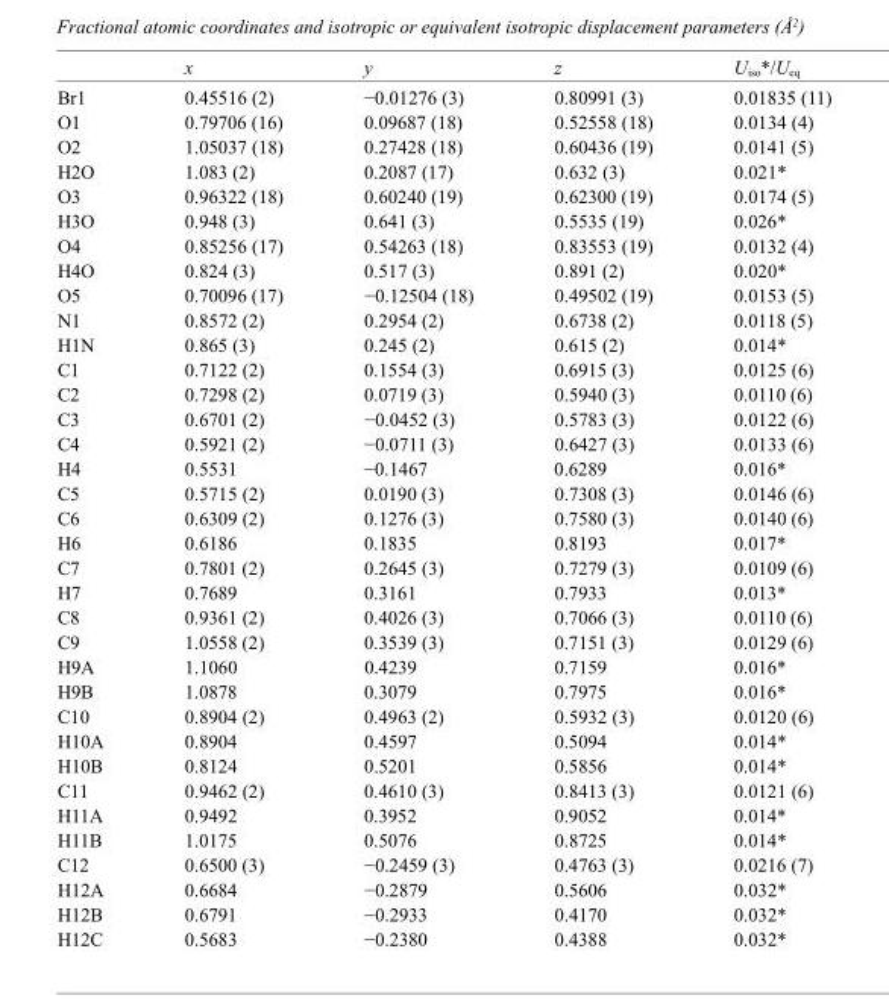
<table><thead><tr><td></td><td>x</td><td>y</td><td>z</td><td>U<sub>iso</sub>*/U<sub>eq</sub></td></tr></thead><tbody><tr><td>Br1</td><td>0.45516 (2)</td><td>−0.01276 (3)</td><td>0.80991 (3)</td><td>0.01835 (11)</td></tr><tr><td>O1</td><td>0.79706 (16)</td><td>0.09687 (18)</td><td>0.52558 (18)</td><td>0.0134 (4)</td></tr><tr><td>O2</td><td>1.05037 (18)</td><td>0.27428 (18)</td><td>0.60436 (19)</td><td>0.0141 (5)</td></tr><tr><td>H2O</td><td>1.083 (2)</td><td>0.2087 (17)</td><td>0.632 (3)</td><td>0.021*</td></tr><tr><td>O3</td><td>0.96322 (18)</td><td>0.60240 (19)</td><td>0.62300 (19)</td><td>0.0174 (5)</td></tr><tr><td>H3O</td><td>0.948 (3)</td><td>0.641 (3)</td><td>0.5535 (19)</td><td>0.026*</td></tr><tr><td>O4</td><td>0.85256 (17)</td><td>0.54263 (18)</td><td>0.83553 (19)</td><td>0.0132 (4)</td></tr><tr><td>H4O</td><td>0.824 (3)</td><td>0.517 (3)</td><td>0.891 (2)</td><td>0.020*</td></tr><tr><td>O5</td><td>0.70096 (17)</td><td>−0.12504 (18)</td><td>0.49502 (19)</td><td>0.0153 (5)</td></tr><tr><td>N1</td><td>0.8572 (2)</td><td>0.2954 (2)</td><td>0.6738 (2)</td><td>0.0118 (5)</td></tr><tr><td>H1N</td><td>0.865 (3)</td><td>0.245 (2)</td><td>0.615 (2)</td><td>0.014*</td></tr><tr><td>C1</td><td>0.7122 (2)</td><td>0.1554 (3)</td><td>0.6915 (3)</td><td>0.0125 (6)</td></tr><tr><td>C2</td><td>0.7298 (2)</td><td>0.0719 (3)</td><td>0.5940 (3)</td><td>0.0110 (6)</td></tr><tr><td>C3</td><td>0.6701 (2)</td><td>−0.0452 (3)</td><td>0.5783 (3)</td><td>0.0122 (6)</td></tr><tr><td>C4</td><td>0.5921 (2)</td><td>−0.0711 (3)</td><td>0.6427 (3)</td><td>0.0133 (6)</td></tr><tr><td>H4</td><td>0.5531</td><td>−0.1467</td><td>0.6289</td><td>0.016*</td></tr><tr><td>C5</td><td>0.5715 (2)</td><td>0.0190 (3)</td><td>0.7308 (3)</td><td>0.0146 (6)</td></tr><tr><td>C6</td><td>0.6309 (2)</td><td>0.1276 (3)</td><td>0.7580 (3)</td><td>0.0140 (6)</td></tr><tr><td>H6</td><td>0.6186</td><td>0.1835</td><td>0.8193</td><td>0.017*</td></tr><tr><td>C7</td><td>0.7801 (2)</td><td>0.2645 (3)</td><td>0.7279 (3)</td><td>0.0109 (6)</td></tr><tr><td>H7</td><td>0.7689</td><td>0.3161</td><td>0.7933</td><td>0.013*</td></tr><tr><td>C8</td><td>0.9361 (2)</td><td>0.4026 (3)</td><td>0.7066 (3)</td><td>0.0110 (6)</td></tr><tr><td>C9</td><td>1.0558 (2)</td><td>0.3539 (3)</td><td>0.7151 (3)</td><td>0.0129 (6)</td></tr><tr><td>H9A</td><td>1.1060</td><td>0.4239</td><td>0.7159</td><td>0.016*</td></tr><tr><td>H9B</td><td>1.0878</td><td>0.3079</td><td>0.7975</td><td>0.016*</td></tr><tr><td>C10</td><td>0.8904 (2)</td><td>0.4963 (2)</td><td>0.5932 (3)</td><td>0.0120 (6)</td></tr><tr><td>H10A</td><td>0.8904</td><td>0.4597</td><td>0.5094</td><td>0.014*</td></tr><tr><td>H10B</td><td>0.8124</td><td>0.5201</td><td>0.5856</td><td>0.014*</td></tr><tr><td>C11</td><td>0.9462 (2)</td><td>0.4610 (3)</td><td>0.8413 (3)</td><td>0.0121 (6)</td></tr><tr><td>H11A</td><td>0.9492</td><td>0.3952</td><td>0.9052</td><td>0.014*</td></tr><tr><td>H11B</td><td>1.0175</td><td>0.5076</td><td>0.8725</td><td>0.014*</td></tr><tr><td>C12</td><td>0.6500 (3)</td><td>−0.2459 (3)</td><td>0.4763 (3)</td><td>0.0216 (7)</td></tr><tr><td>H12A</td><td>0.6684</td><td>−0.2879</td><td>0.5606</td><td>0.032*</td></tr><tr><td>H12B</td><td>0.6791</td><td>−0.2933</td><td>0.4170</td><td>0.032*</td></tr><tr><td>H12C</td><td>0.5683</td><td>−0.2380</td><td>0.4388</td><td>0.032*</td></tr></tbody></table>